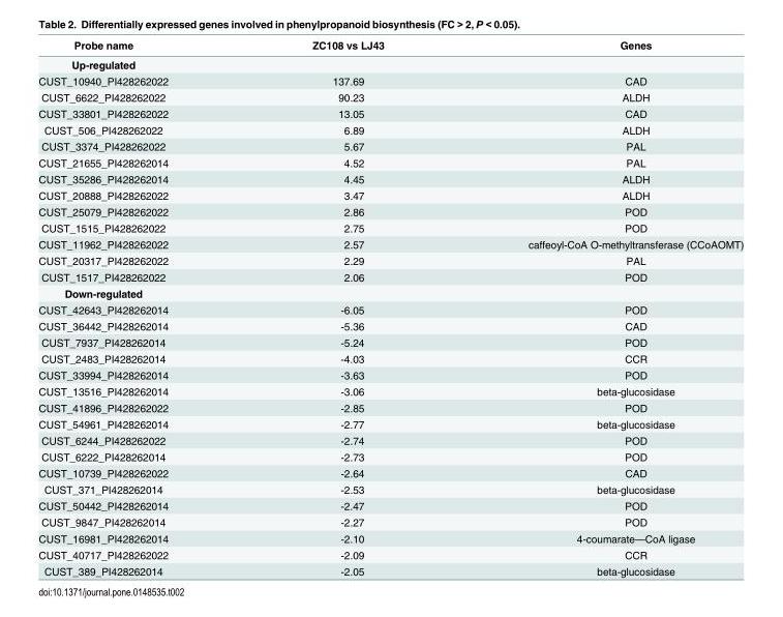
<table><thead><tr><td>Probe name</td><td>ZC108 vs LJ43</td><td>Genes</td></tr></thead><tbody><tr><td colspan="3">Up-regulated</td></tr><tr><td>CUST_10940_PI428262022</td><td>137.69</td><td>CAD</td></tr><tr><td>CUST_6622_PI428262022</td><td>90.23</td><td>ALDH</td></tr><tr><td>CUST_33801_PI428262022</td><td>13.05</td><td>CAD</td></tr><tr><td>CUST_506_PI428262022</td><td>6.89</td><td>ALDH</td></tr><tr><td>CUST_3374_PI428262022</td><td>5.67</td><td>PAL</td></tr><tr><td>CUST_21655_PI428262014</td><td>4.52</td><td>PAL</td></tr><tr><td>CUST_35286_PI428262014</td><td>4.45</td><td>ALDH</td></tr><tr><td>CUST_20888_PI428262022</td><td>3.47</td><td>ALDH</td></tr><tr><td>CUST_25079_PI428262022</td><td>2.86</td><td>POD</td></tr><tr><td>CUST_1515_PI428262022</td><td>2.75</td><td>POD</td></tr><tr><td>CUST_11962_PI428262022</td><td>2.57</td><td>caffeoyl-CoA O-methyltransferase (CCoAOMT)</td></tr><tr><td>CUST_20317_PI428262022</td><td>2.29</td><td>PAL</td></tr><tr><td>CUST_1517_PI428262022</td><td>2.06</td><td>POD</td></tr><tr><td colspan="3">Down-regulated</td></tr><tr><td>CUST_42643_PI428262014</td><td>-6.05</td><td>POD</td></tr><tr><td>CUST_36442_PI428262014</td><td>-5.36</td><td>CAD</td></tr><tr><td>CUST_7937_PI428262014</td><td>-5.24</td><td>POD</td></tr><tr><td>CUST_2483_PI428262014</td><td>-4.03</td><td>CCR</td></tr><tr><td>CUST_33994_PI428262014</td><td>-3.63</td><td>POD</td></tr><tr><td>CUST_13516_PI428262014</td><td>-3.06</td><td>beta-glucosidase</td></tr><tr><td>CUST_41896_PI428262022</td><td>-2.85</td><td>POD</td></tr><tr><td>CUST_54961_PI428262014</td><td>-2.77</td><td>beta-glucosidase</td></tr><tr><td>CUST_6244_PI428262022</td><td>-2.74</td><td>POD</td></tr><tr><td>CUST_6222_PI428262014</td><td>-2.73</td><td>POD</td></tr><tr><td>CUST_10739_PI428262022</td><td>-2.64</td><td>CAD</td></tr><tr><td>CUST_371_PI428262014</td><td>-2.53</td><td>beta-glucosidase</td></tr><tr><td>CUST_50442_PI428262014</td><td>-2.47</td><td>POD</td></tr><tr><td>CUST_9847_PI428262014</td><td>-2.27</td><td>POD</td></tr><tr><td>CUST_16981_PI428262014</td><td>-2.10</td><td>4-coumarate—CoA ligase</td></tr><tr><td>CUST_40717_PI428262022</td><td>-2.09</td><td>CCR</td></tr><tr><td>CUST_389_PI428262014</td><td>-2.05</td><td>beta-glucosidase</td></tr></tbody></table>